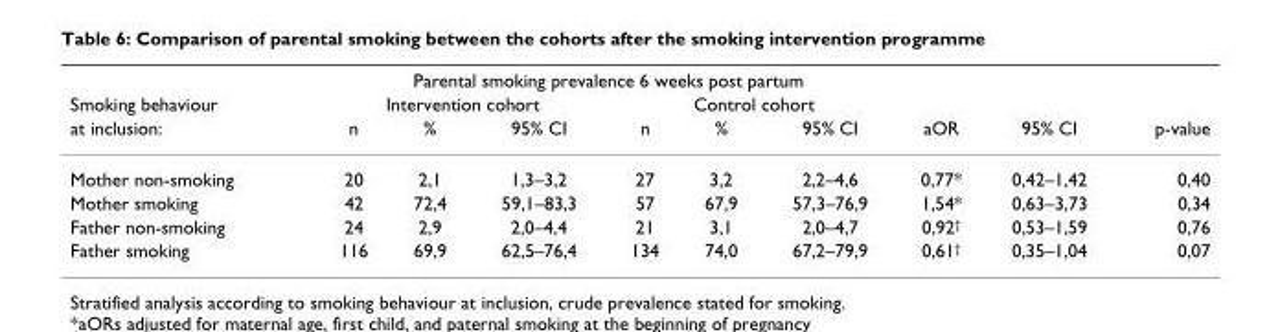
<table><thead><tr><td rowspan="3">Smoking behaviour at inclusion:</td><td colspan="6">Parental smoking prevalence 6 weeks post partum</td><td rowspan="3">aOR</td><td rowspan="3">95% CI</td><td rowspan="3">p-value</td></tr><tr><td colspan="3">Intervention cohort</td><td colspan="3">Control cohort</td></tr><tr><td>n</td><td>%</td><td>95% CI</td><td>n</td><td>%</td><td>95% CI</td></tr></thead><tbody><tr><td>Mother non-smoking</td><td>20</td><td>2,1</td><td>1,3–3,2</td><td>27</td><td>3,2</td><td>2,2–4,6</td><td>0,77*</td><td>0,42–1,42</td><td>0,40</td></tr><tr><td>Mother smoking</td><td>42</td><td>72,4</td><td>59,1–83,3</td><td>57</td><td>67,9</td><td>57,3–76,9</td><td>1,54*</td><td>0,63–3,73</td><td>0,34</td></tr><tr><td>Father non-smoking</td><td>24</td><td>2,9</td><td>2,0–4,4</td><td>21</td><td>3,1</td><td>2,0–4,7</td><td>0,92<sup>†</sup></td><td>0,53–1,59</td><td>0,76</td></tr><tr><td>Father smoking</td><td>116</td><td>69,9</td><td>62,5–76,4</td><td>134</td><td>74,0</td><td>67,2–79,9</td><td>0,61<sup>†</sup></td><td>0,35–1,04</td><td>0,07</td></tr></tbody></table>